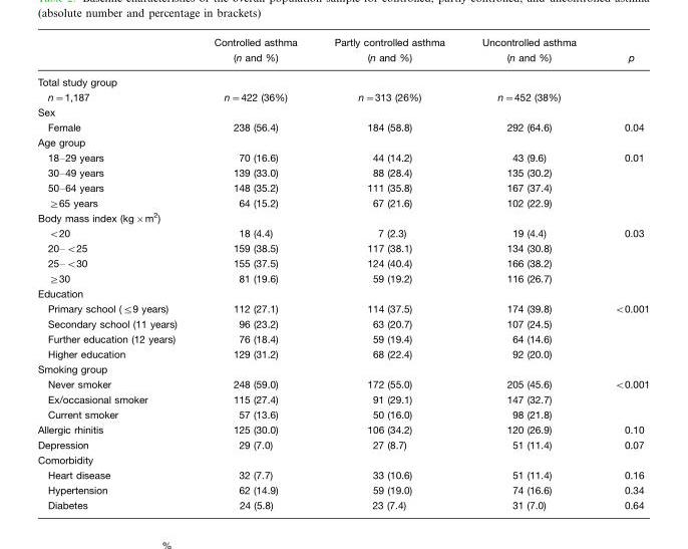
<table><thead><tr><td></td><td>Controlled asthma (n and %)</td><td>Partly controlled asthma (n and %)</td><td>Uncontrolled asthma (n and %)</td><td>p</td></tr></thead><tbody><tr><td colspan="5">Total study group</td></tr><tr><td>n=1,187</td><td>n=422 (36%)</td><td>n=313 (26%)</td><td>n=452 (38%)</td><td></td></tr><tr><td colspan="5">Sex</td></tr><tr><td>Female</td><td>238 (56.4)</td><td>184 (58.8)</td><td>292 (64.6)</td><td>0.04</td></tr><tr><td colspan="5">Age group</td></tr><tr><td>18–29 years</td><td>70 (16.6)</td><td>44 (14.2)</td><td>43 (9.6)</td><td>0.01</td></tr><tr><td>30–49 years</td><td>139 (33.0)</td><td>88 (28.4)</td><td>135 (30.2)</td><td></td></tr><tr><td>50–64 years</td><td>148 (35.2)</td><td>111 (35.8)</td><td>167 (37.4)</td><td></td></tr><tr><td>≥65 years</td><td>64 (15.2)</td><td>67 (21.6)</td><td>102 (22.9)</td><td></td></tr><tr><td colspan="5">Body mass index (kg×m<sup>2</sup>)</td></tr><tr><td>&lt;20</td><td>18 (4.4)</td><td>7 (2.3)</td><td>19 (4.4)</td><td>0.03</td></tr><tr><td>20–&lt;25</td><td>159 (38.5)</td><td>117 (38.1)</td><td>134 (30.8)</td><td></td></tr><tr><td>25–&lt;30</td><td>155 (37.5)</td><td>124 (40.4)</td><td>166 (38.2)</td><td></td></tr><tr><td>≥30</td><td>81 (19.6)</td><td>59 (19.2)</td><td>116 (26.7)</td><td></td></tr><tr><td colspan="5">Education</td></tr><tr><td>Primary school (≤9 years)</td><td>112 (27.1)</td><td>114 (37.5)</td><td>174 (39.8)</td><td>&lt;0.001</td></tr><tr><td>Secondary school (11 years)</td><td>96 (23.2)</td><td>63 (20.7)</td><td>107 (24.5)</td><td></td></tr><tr><td>Further education (12 years)</td><td>76 (18.4)</td><td>59 (19.4)</td><td>64 (14.6)</td><td></td></tr><tr><td>Higher education</td><td>129 (31.2)</td><td>68 (22.4)</td><td>92 (20.0)</td><td></td></tr><tr><td colspan="5">Smoking group</td></tr><tr><td>Never smoker</td><td>248 (59.0)</td><td>172 (55.0)</td><td>205 (45.6)</td><td>&lt;0.001</td></tr><tr><td>Ex/occasional smoker</td><td>115 (27.4)</td><td>91 (29.1)</td><td>147 (32.7)</td><td></td></tr><tr><td>Current smoker</td><td>57 (13.6)</td><td>50 (16.0)</td><td>98 (21.8)</td><td></td></tr><tr><td>Allergic rhinitis</td><td>125 (30.0)</td><td>106 (34.2)</td><td>120 (26.9)</td><td>0.10</td></tr><tr><td>Depression</td><td>29 (7.0)</td><td>27 (8.7)</td><td>51 (11.4)</td><td>0.07</td></tr><tr><td colspan="5">Comorbidity</td></tr><tr><td>Heart disease</td><td>32 (7.7)</td><td>33 (10.6)</td><td>51 (11.4)</td><td>0.16</td></tr><tr><td>Hypertension</td><td>62 (14.9)</td><td>59 (19.0)</td><td>74 (16.6)</td><td>0.34</td></tr><tr><td>Diabetes</td><td>24 (5.8)</td><td>23 (7.4)</td><td>31 (7.0)</td><td>0.64</td></tr></tbody></table>